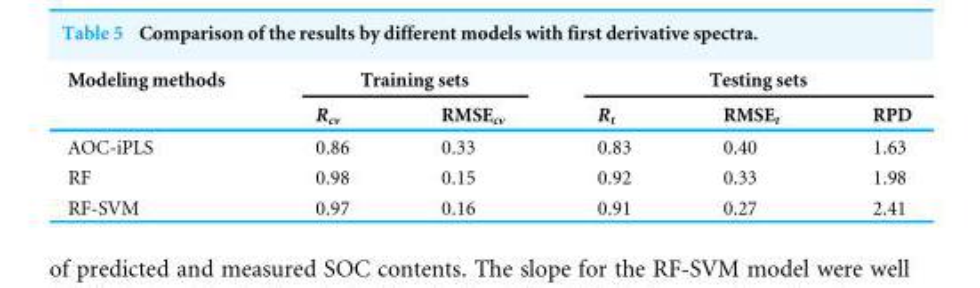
<table><thead><tr><td rowspan="2">Modeling methods</td><td colspan="2">Training sets</td><td colspan="3">Testing sets</td></tr><tr><td>R<sub>cv</sub></td><td>RMSE<sub>cv</sub></td><td>R<sub>t</sub></td><td>RMSE<sub>t</sub></td><td>RPD</td></tr></thead><tbody><tr><td>AOC-iPLS</td><td>0.86</td><td>0.33</td><td>0.83</td><td>0.40</td><td>1.63</td></tr><tr><td>RF</td><td>0.98</td><td>0.15</td><td>0.92</td><td>0.33</td><td>1.98</td></tr><tr><td>RF-SVM</td><td>0.97</td><td>0.16</td><td>0.91</td><td>0.27</td><td>2.41</td></tr></tbody></table>